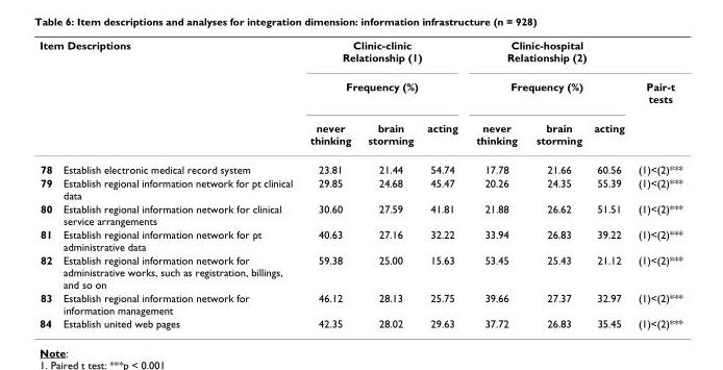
<table><thead><tr><td colspan="2">Item Descriptions</td><td rowspan="2" colspan="3">Clinic-clinic Relationship (1) Frequency (%)</td><td rowspan="2" colspan="3">Clinic-hospital Relationship (2) Frequency (%)</td><td rowspan="3">Pair-t tests</td></tr><tr><td rowspan="2"></td><td rowspan="2"></td></tr><tr><td>never thinking</td><td>brain storming</td><td>acting</td><td>never thinking</td><td>brain storming</td><td>acting</td></tr></thead><tbody><tr><td>78</td><td>Establish electronic medical record system</td><td>23.81</td><td>21.44</td><td>54.74</td><td>17.78</td><td>21.66</td><td>60.56</td><td>(1)&lt;(2)***</td></tr><tr><td>79</td><td>Establish regional information network for pt clinical data</td><td>29.85</td><td>24.68</td><td>45.47</td><td>20.26</td><td>24.35</td><td>55.39</td><td>(1)&lt;(2)***</td></tr><tr><td>80</td><td>Establish regional information network for clinical service arrangements</td><td>30.60</td><td>27.59</td><td>41.81</td><td>21.88</td><td>26.62</td><td>51.51</td><td>(1)&lt;(2)***</td></tr><tr><td>81</td><td>Establish regional information network for pt administrative data</td><td>40.63</td><td>27.16</td><td>32.22</td><td>33.94</td><td>26.83</td><td>39.22</td><td>(1)&lt;(2)***</td></tr><tr><td>82</td><td>Establish regional information network for administrative works, such as registration, billings, and so on</td><td>59.38</td><td>25.00</td><td>15.63</td><td>53.45</td><td>25.43</td><td>21.12</td><td>(1)&lt;(2)***</td></tr><tr><td>83</td><td>Establish regional information network for information management</td><td>46.12</td><td>28.13</td><td>25.75</td><td>39.66</td><td>27.37</td><td>32.97</td><td>(1)&lt;(2)***</td></tr><tr><td>84</td><td>Establish united web pages</td><td>42.35</td><td>28.02</td><td>29.63</td><td>37.72</td><td>26.83</td><td>35.45</td><td>(1)&lt;(2)***</td></tr></tbody></table>